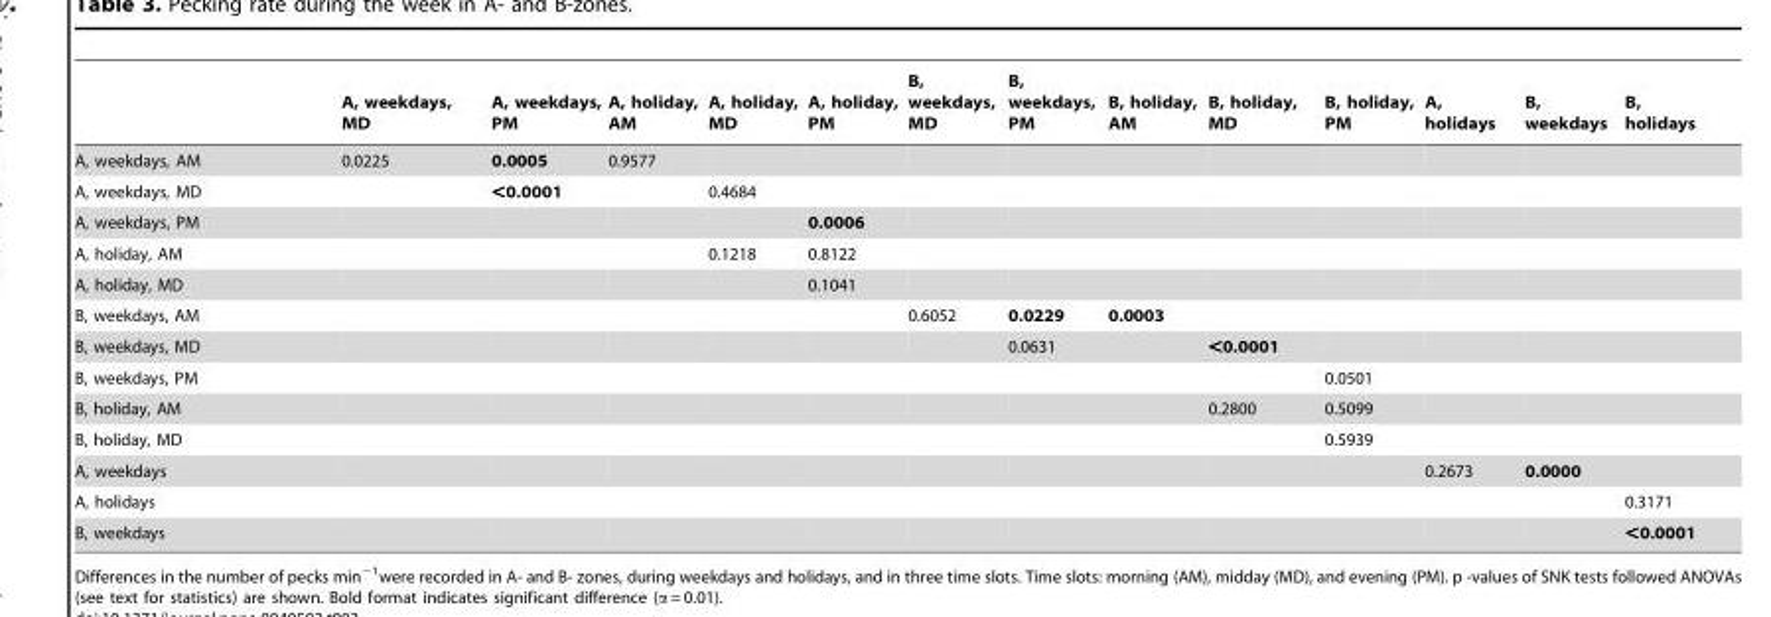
<table><thead><tr><td></td><td>A, weekdays, MD</td><td>A, weekdays, PM</td><td>A, holiday, AM</td><td>A, holiday, MD</td><td>A, holiday, PM</td><td>B, weekdays, MD</td><td>B, weekdays, PM</td><td>B, holiday, AM</td><td>B, holiday, MD</td><td>B, holiday, PM</td><td>A, holidays</td><td>B, weekdays</td><td>B, holidays</td></tr></thead><tbody><tr><td>A, weekdays, AM</td><td>0.0225</td><td>0.0005</td><td>0.9577</td><td></td><td></td><td></td><td></td><td></td><td></td><td></td><td></td><td></td><td></td></tr><tr><td>A, weekdays, MD</td><td></td><td>&lt;0.0001</td><td></td><td>0.4684</td><td></td><td></td><td></td><td></td><td></td><td></td><td></td><td></td><td></td></tr><tr><td>A, weekdays, PM</td><td></td><td></td><td></td><td></td><td>0.0006</td><td></td><td></td><td></td><td></td><td></td><td></td><td></td><td></td></tr><tr><td>A, holiday, AM</td><td></td><td></td><td></td><td>0.1218</td><td>0.8122</td><td></td><td></td><td></td><td></td><td></td><td></td><td></td><td></td></tr><tr><td>A, holiday, MD</td><td></td><td></td><td></td><td></td><td>0.1041</td><td></td><td></td><td></td><td></td><td></td><td></td><td></td><td></td></tr><tr><td>B, weekdays, AM</td><td></td><td></td><td></td><td></td><td></td><td>0.6052</td><td>0.0229</td><td>0.0003</td><td></td><td></td><td></td><td></td><td></td></tr><tr><td>B, weekdays, MD</td><td></td><td></td><td></td><td></td><td></td><td></td><td>0.0631</td><td></td><td>&lt;0.0001</td><td></td><td></td><td></td><td></td></tr><tr><td>B, weekdays, PM</td><td></td><td></td><td></td><td></td><td></td><td></td><td></td><td></td><td></td><td>0.0501</td><td></td><td></td><td></td></tr><tr><td>B, holiday, AM</td><td></td><td></td><td></td><td></td><td></td><td></td><td></td><td></td><td>0.2800</td><td>0.5099</td><td></td><td></td><td></td></tr><tr><td>B, holiday, MD</td><td></td><td></td><td></td><td></td><td></td><td></td><td></td><td></td><td></td><td>0.5939</td><td></td><td></td><td></td></tr><tr><td>A, weekdays</td><td></td><td></td><td></td><td></td><td></td><td></td><td></td><td></td><td></td><td></td><td>0.2673</td><td>0.0000</td><td></td></tr><tr><td>A, holidays</td><td></td><td></td><td></td><td></td><td></td><td></td><td></td><td></td><td></td><td></td><td></td><td></td><td>0.3171</td></tr><tr><td>B, weekdays</td><td></td><td></td><td></td><td></td><td></td><td></td><td></td><td></td><td></td><td></td><td></td><td></td><td>&lt;0.0001</td></tr></tbody></table>